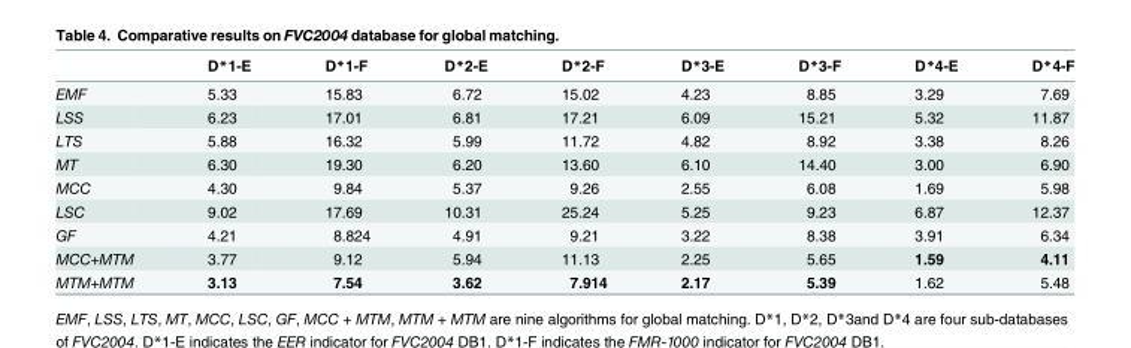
<table><thead><tr><td></td><td>D*1-E</td><td>D*1-F</td><td>D*2-E</td><td>D*2-F</td><td>D*3-E</td><td>D*3-F</td><td>D*4-E</td><td>D*4-F</td></tr></thead><tbody><tr><td>EMF</td><td>5.33</td><td>15.83</td><td>6.72</td><td>15.02</td><td>4.23</td><td>8.85</td><td>3.29</td><td>7.69</td></tr><tr><td>LSS</td><td>6.23</td><td>17.01</td><td>6.81</td><td>17.21</td><td>6.09</td><td>15.21</td><td>5.32</td><td>11.87</td></tr><tr><td>LTS</td><td>5.88</td><td>16.32</td><td>5.99</td><td>11.72</td><td>4.82</td><td>8.92</td><td>3.38</td><td>8.26</td></tr><tr><td>MT</td><td>6.30</td><td>19.30</td><td>6.20</td><td>13.60</td><td>6.10</td><td>14.40</td><td>3.00</td><td>6.90</td></tr><tr><td>MCC</td><td>4.30</td><td>9.84</td><td>5.37</td><td>9.26</td><td>2.55</td><td>6.08</td><td>1.69</td><td>5.98</td></tr><tr><td>LSC</td><td>9.02</td><td>17.69</td><td>10.31</td><td>25.24</td><td>5.25</td><td>9.23</td><td>6.87</td><td>12.37</td></tr><tr><td>GF</td><td>4.21</td><td>8.824</td><td>4.91</td><td>9.21</td><td>3.22</td><td>8.38</td><td>3.91</td><td>6.34</td></tr><tr><td>MCC+MTM</td><td>3.77</td><td>9.12</td><td>5.94</td><td>11.13</td><td>2.25</td><td>5.65</td><td>1.59</td><td>4.11</td></tr><tr><td>MTM+MTM</td><td>3.13</td><td>7.54</td><td>3.62</td><td>7.914</td><td>2.17</td><td>5.39</td><td>1.62</td><td>5.48</td></tr></tbody></table>